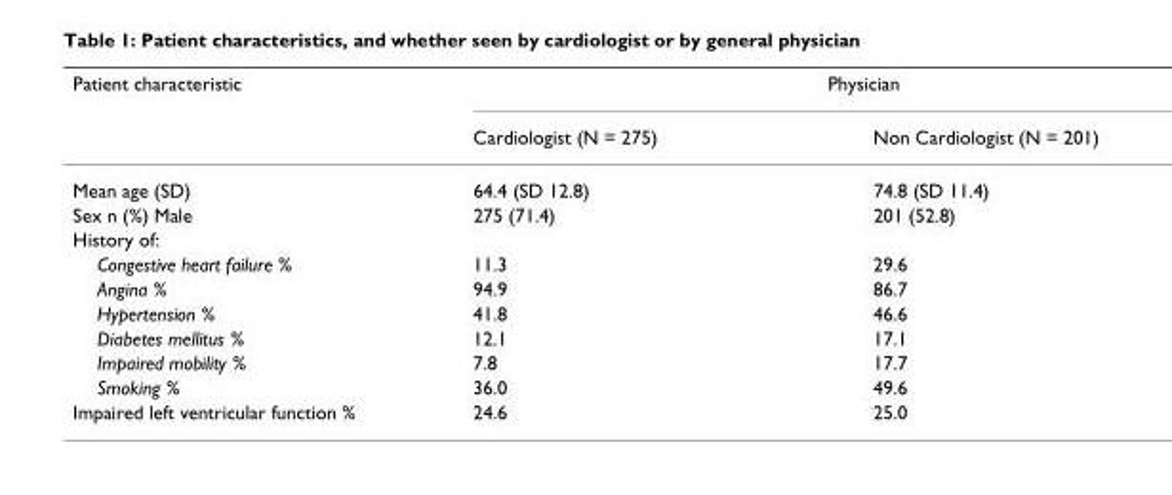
<table><thead><tr><td rowspan="2">Patient characteristic</td><td colspan="2">Physician</td></tr><tr><td>Cardiologist (N = 275)</td><td>Non Cardiologist (N = 201)</td></tr></thead><tbody><tr><td>Mean age (SD)</td><td>64.4 (SD 12.8)</td><td>74.8 (SD 11.4)</td></tr><tr><td>Sex n (%) Male</td><td>275 (71.4)</td><td>201 (52.8)</td></tr><tr><td colspan="3">History of:</td></tr><tr><td>Congestive heart failure %</td><td>11.3</td><td>29.6</td></tr><tr><td>Angina %</td><td>94.9</td><td>86.7</td></tr><tr><td>Hypertension %</td><td>41.8</td><td>46.6</td></tr><tr><td>Diabetes mellitus %</td><td>12.1</td><td>17.1</td></tr><tr><td>Impaired mobility %</td><td>7.8</td><td>17.7</td></tr><tr><td>Smoking %</td><td>36.0</td><td>49.6</td></tr><tr><td>Impaired left ventricular function %</td><td>24.6</td><td>25.0</td></tr></tbody></table>